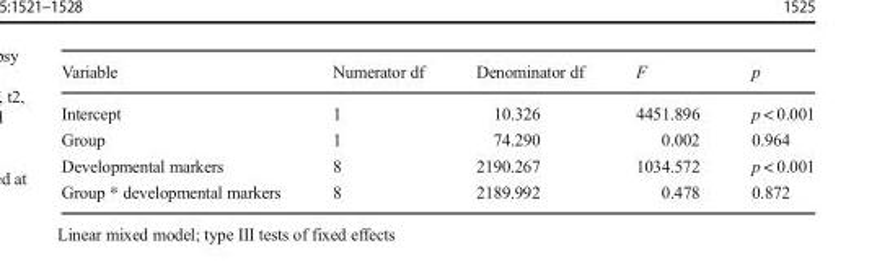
<table><thead><tr><td>Variable</td><td>Numerator df</td><td>Denominator df</td><td>F</td><td>p</td></tr></thead><tbody><tr><td>Intercept</td><td>1</td><td>10.326</td><td>4451.896</td><td>p &lt; 0.001</td></tr><tr><td>Group</td><td>1</td><td>74.290</td><td>0.002</td><td>0.964</td></tr><tr><td>Developmental markers</td><td>8</td><td>2190.267</td><td>1034.572</td><td>p &lt; 0.001</td></tr><tr><td>Group * developmental markers</td><td>8</td><td>2189.992</td><td>0.478</td><td>0.872</td></tr></tbody></table>